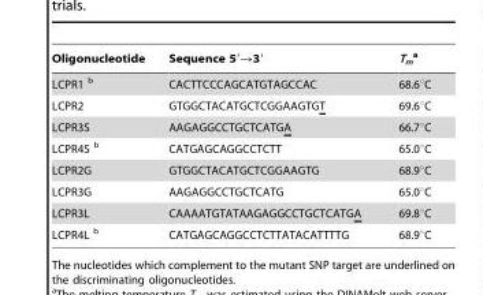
<table><thead><tr><td>Oligonucleotide</td><td>Sequence 5′→3′</td><td>T<sub>m</sub> a</td></tr></thead><tbody><tr><td>LCPR1 b</td><td>CACTTCCCAGCATGTAGCCAC</td><td>68.6°C</td></tr><tr><td>LCPR2</td><td>GTGGCTACATGCTCGGAAGTGT</td><td>69.6°C</td></tr><tr><td>LCPR3S</td><td>AAGAGGCCTGCTCATGA</td><td>66.7°C</td></tr><tr><td>LCPR4S b</td><td>CATGAGCAGGCCTCTT</td><td>65.0°C</td></tr><tr><td>LCPR2G</td><td>GTGGCTACATGCTCGGAAGTG</td><td>68.9°C</td></tr><tr><td>LCPR3G</td><td>AAGAGGCCTGCTCATG</td><td>65.0°C</td></tr><tr><td>LCPR3L</td><td>CAAAATGTATAAGAGGCCTGCTCATGA</td><td>69.8°C</td></tr><tr><td>LCPR4L b</td><td>CATGAGCAGGCCTCTTATACATTTTG</td><td>68.9°C</td></tr></tbody></table>